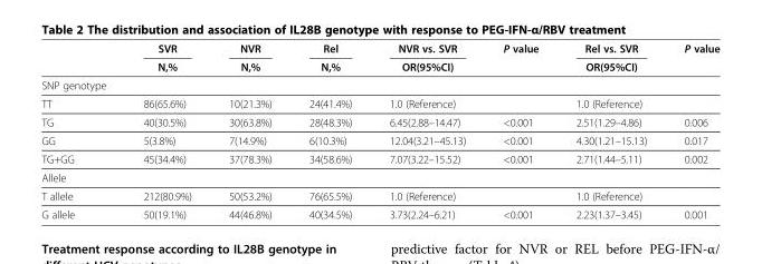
<table><thead><tr><td rowspan="2"></td><td rowspan="2">SVR N,%</td><td rowspan="2">NVR N,%</td><td rowspan="2">Rel N,%</td><td rowspan="2">NVR vs. SVR OR(95%CI)</td><td rowspan="2">P value</td><td rowspan="2">Rel vs. SVR OR(95%CI)</td><td rowspan="2">P value</td></tr><tr></tr></thead><tbody><tr><td colspan="8">SNP genotype</td></tr><tr><td>TT</td><td>86(65.6%)</td><td>10(21.3%)</td><td>24(41.4%)</td><td>1.0 (Reference)</td><td></td><td>1.0 (Reference)</td><td></td></tr><tr><td>TG</td><td>40(30.5%)</td><td>30(63.8%)</td><td>28(48.3%)</td><td>6.45(2.88–14.47)</td><td>&lt;0.001</td><td>2.51(1.29–4.86)</td><td>0.006</td></tr><tr><td>GG</td><td>5(3.8%)</td><td>7(14.9%)</td><td>6(10.3%)</td><td>12.04(3.21–45.13)</td><td>&lt;0.001</td><td>4.30(1.21–15.13)</td><td>0.017</td></tr><tr><td>TG+GG</td><td>45(34.4%)</td><td>37(78.3%)</td><td>34(58.6%)</td><td>7.07(3.22–15.52)</td><td>&lt;0.001</td><td>2.71(1.44–5.11)</td><td>0.002</td></tr><tr><td colspan="8">Allele</td></tr><tr><td>T allele</td><td>212(80.9%)</td><td>50(53.2%)</td><td>76(65.5%)</td><td>1.0 (Reference)</td><td></td><td>1.0 (Reference)</td><td></td></tr><tr><td>G allele</td><td>50(19.1%)</td><td>44(46.8%)</td><td>40(34.5%)</td><td>3.73(2.24–6.21)</td><td>&lt;0.001</td><td>2.23(1.37–3.45)</td><td>0.001</td></tr></tbody></table>